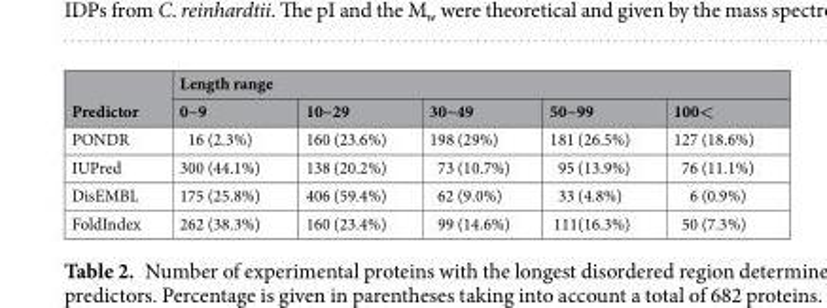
<table><thead><tr><td rowspan="2">Predictor</td><td colspan="5">Length range</td></tr><tr><td>0~9</td><td>10~29</td><td>30~49</td><td>50~99</td><td>100&lt;</td></tr></thead><tbody><tr><td>PONDR</td><td>16 (2.3%)</td><td>160 (23.6%)</td><td>198 (29%)</td><td>181 (26.5%)</td><td>127 (18.6%)</td></tr><tr><td>IUPred</td><td>300 (44.1%)</td><td>138 (20.2%)</td><td>73 (10.7%)</td><td>95 (13.9%)</td><td>76 (11.1%)</td></tr><tr><td>DisEMBL</td><td>175 (25.8%)</td><td>406 (59.4%)</td><td>62 (9.0%)</td><td>33 (4.8%)</td><td>6 (0.9%)</td></tr><tr><td>FoldIndex</td><td>262 (38.3%)</td><td>160 (23.4%)</td><td>99 (14.6%)</td><td>111(16.3%)</td><td>50 (7.3%)</td></tr></tbody></table>